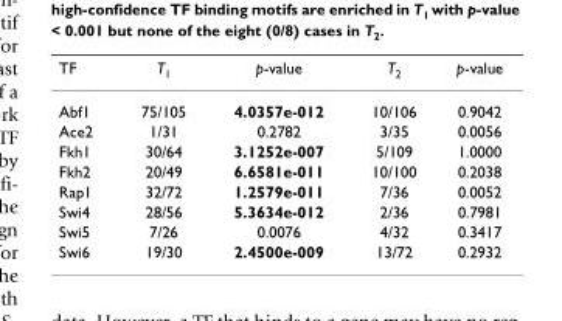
<table><thead><tr><td>TF</td><td>T<sub>1</sub></td><td>p-value</td><td>T<sub>2</sub></td><td>p-value</td></tr></thead><tbody><tr><td>Abf1</td><td>75/105</td><td>4.0357e-012</td><td>10/106</td><td>0.9042</td></tr><tr><td>Ace2</td><td>1/31</td><td>0.2782</td><td>3/35</td><td>0.0056</td></tr><tr><td>Fkh1</td><td>30/64</td><td>3.1252e-007</td><td>5/109</td><td>1.0000</td></tr><tr><td>Fkh2</td><td>20/49</td><td>6.6581e-011</td><td>10/100</td><td>0.2038</td></tr><tr><td>Rap1</td><td>32/72</td><td>1.2579e-011</td><td>7/36</td><td>0.0052</td></tr><tr><td>Swi4</td><td>28/56</td><td>5.3634e-012</td><td>2/36</td><td>0.7981</td></tr><tr><td>Swi5</td><td>7/26</td><td>0.0076</td><td>4/32</td><td>0.3417</td></tr><tr><td>Swi6</td><td>19/30</td><td>2.4500e-009</td><td>13/72</td><td>0.2932</td></tr></tbody></table>